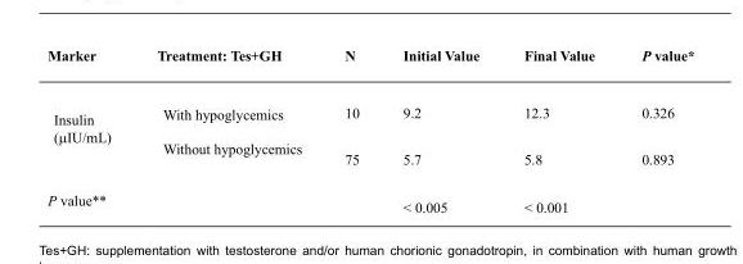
<table><thead><tr><td>Marker</td><td>Treatment: Tes+GH</td><td>N</td><td>Initial Value</td><td>Final Value</td><td>P value*</td></tr></thead><tbody><tr><td rowspan="2">Insulin (μIU/mL)</td><td>With hypoglycemics</td><td>10</td><td>9.2</td><td>12.3</td><td>0.326</td></tr><tr><td>Without hypoglycemics</td><td>75</td><td>5.7</td><td>5.8</td><td>0.893</td></tr><tr><td colspan="3">P value**</td><td>&lt; 0.005</td><td>&lt; 0.001</td><td></td></tr></tbody></table>